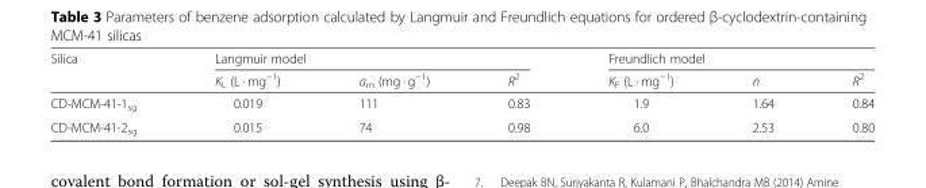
<table><thead><tr><td rowspan="2">Silica</td><td colspan="3">Langmuir model</td><td colspan="3">Freundlich model</td></tr><tr><td>K<sub>L</sub> (L · mg<sup>−1</sup>)</td><td>a<sub>m</sub> (mg · g<sup>−1</sup>)</td><td>R<sup>2</sup></td><td>K<sub>F</sub> (L · mg<sup>−1</sup>)</td><td>n</td><td>R<sup>2</sup></td></tr></thead><tbody><tr><td>CD-MCM-41-1<sub>sg</sub></td><td>0.019</td><td>111</td><td>0.83</td><td>1.9</td><td>1.64</td><td>0.84</td></tr><tr><td>CD-MCM-41-2<sub>sg</sub></td><td>0.015</td><td>74</td><td>0.98</td><td>6.0</td><td>2.53</td><td>0.80</td></tr></tbody></table>